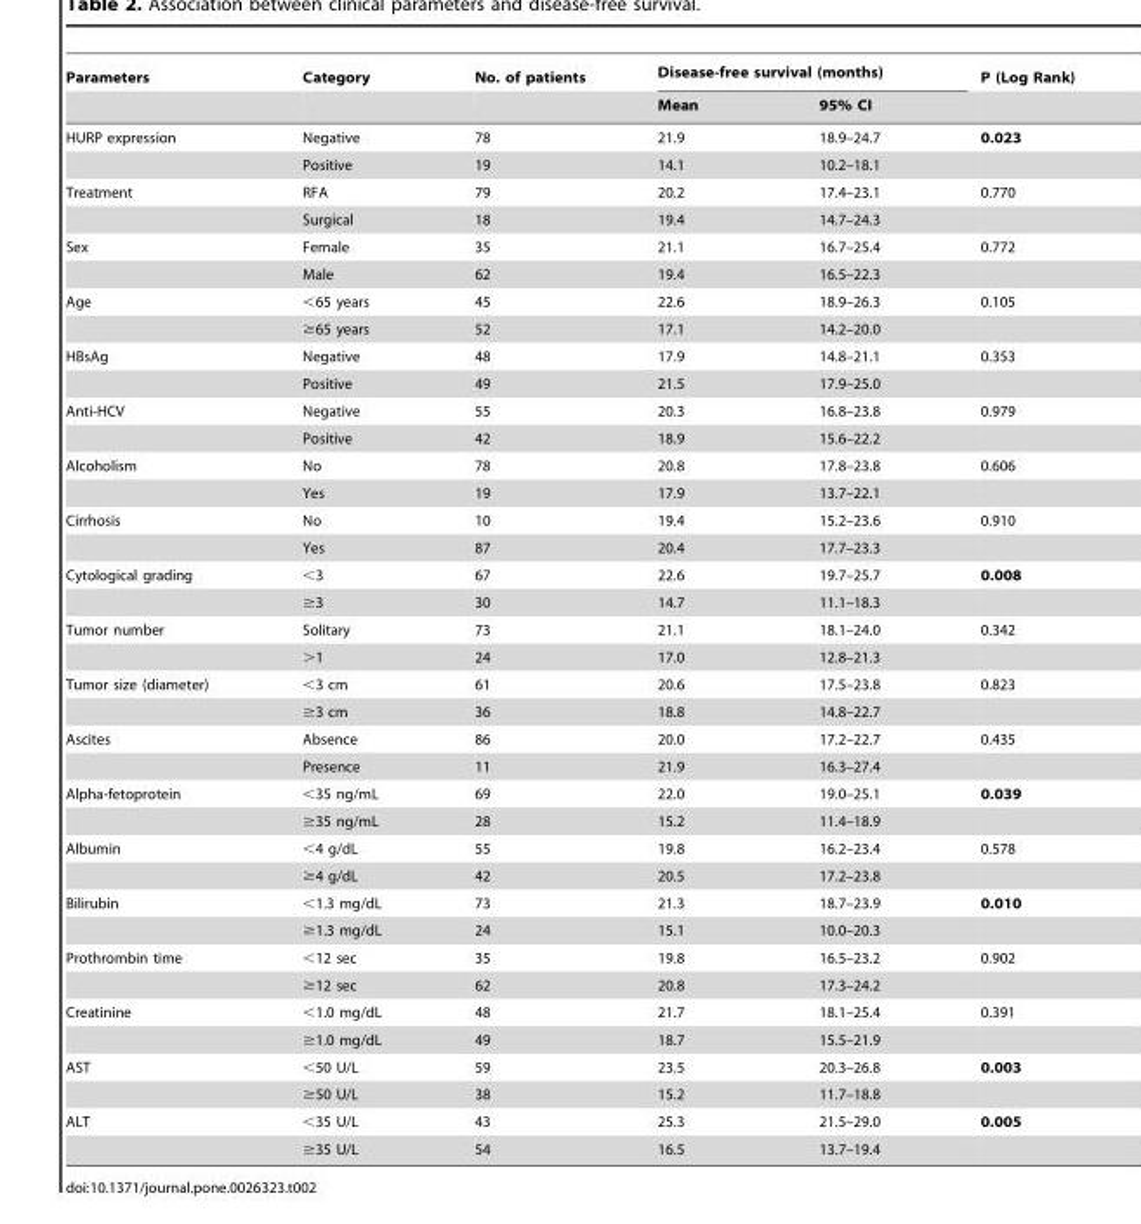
<table><thead><tr><td rowspan="2">Parameters</td><td rowspan="2">Category</td><td rowspan="2">No. of patients</td><td colspan="2">Disease-free survival (months)</td><td rowspan="2">P (Log Rank)</td></tr><tr><td>Mean</td><td>95% CI</td></tr></thead><tbody><tr><td rowspan="2">HURP expression</td><td>Negative</td><td>78</td><td>21.9</td><td>18.9–24.7</td><td>0.023</td></tr><tr><td>Positive</td><td>19</td><td>14.1</td><td>10.2–18.1</td><td></td></tr><tr><td rowspan="2">Treatment</td><td>RFA</td><td>79</td><td>20.2</td><td>17.4–23.1</td><td>0.770</td></tr><tr><td>Surgical</td><td>18</td><td>19.4</td><td>14.7–24.3</td><td></td></tr><tr><td rowspan="2">Sex</td><td>Female</td><td>35</td><td>21.1</td><td>16.7–25.4</td><td>0.772</td></tr><tr><td>Male</td><td>62</td><td>19.4</td><td>16.5–22.3</td><td></td></tr><tr><td rowspan="2">Age</td><td>&lt;65 years</td><td>45</td><td>22.6</td><td>18.9–26.3</td><td>0.105</td></tr><tr><td>≥65 years</td><td>52</td><td>17.1</td><td>14.2–20.0</td><td></td></tr><tr><td rowspan="2">HBsAg</td><td>Negative</td><td>48</td><td>17.9</td><td>14.8–21.1</td><td>0.353</td></tr><tr><td>Positive</td><td>49</td><td>21.5</td><td>17.9–25.0</td><td></td></tr><tr><td rowspan="2">Anti-HCV</td><td>Negative</td><td>55</td><td>20.3</td><td>16.8–23.8</td><td>0.979</td></tr><tr><td>Positive</td><td>42</td><td>18.9</td><td>15.6–22.2</td><td></td></tr><tr><td rowspan="2">Alcoholism</td><td>No</td><td>78</td><td>20.8</td><td>17.8–23.8</td><td>0.606</td></tr><tr><td>Yes</td><td>19</td><td>17.9</td><td>13.7–22.1</td><td></td></tr><tr><td rowspan="2">Cirrhosis</td><td>No</td><td>10</td><td>19.4</td><td>15.2–23.6</td><td>0.910</td></tr><tr><td>Yes</td><td>87</td><td>20.4</td><td>17.7–23.3</td><td></td></tr><tr><td rowspan="2">Cytological grading</td><td>&lt;3</td><td>67</td><td>22.6</td><td>19.7–25.7</td><td>0.008</td></tr><tr><td>≥3</td><td>30</td><td>14.7</td><td>11.1–18.3</td><td></td></tr><tr><td rowspan="2">Tumor number</td><td>Solitary</td><td>73</td><td>21.1</td><td>18.1–24.0</td><td>0.342</td></tr><tr><td>&gt;1</td><td>24</td><td>17.0</td><td>12.8–21.3</td><td></td></tr><tr><td rowspan="2">Tumor size (diameter)</td><td>&lt;3 cm</td><td>61</td><td>20.6</td><td>17.5–23.8</td><td>0.823</td></tr><tr><td>≥3 cm</td><td>36</td><td>18.8</td><td>14.8–22.7</td><td></td></tr><tr><td rowspan="2">Ascites</td><td>Absence</td><td>86</td><td>20.0</td><td>17.2–22.7</td><td>0.435</td></tr><tr><td>Presence</td><td>11</td><td>21.9</td><td>16.3–27.4</td><td></td></tr><tr><td rowspan="2">Alpha-fetoprotein</td><td>&lt;35 ng/mL</td><td>69</td><td>22.0</td><td>19.0–25.1</td><td>0.039</td></tr><tr><td>≥35 ng/mL</td><td>28</td><td>15.2</td><td>11.4–18.9</td><td></td></tr><tr><td rowspan="2">Albumin</td><td>&lt;4 g/dL</td><td>55</td><td>19.8</td><td>16.2–23.4</td><td>0.578</td></tr><tr><td>≥4 g/dL</td><td>42</td><td>20.5</td><td>17.2–23.8</td><td></td></tr><tr><td rowspan="2">Bilirubin</td><td>&lt;1.3 mg/dL</td><td>73</td><td>21.3</td><td>18.7–23.9</td><td>0.010</td></tr><tr><td>≥1.3 mg/dL</td><td>24</td><td>15.1</td><td>10.0–20.3</td><td></td></tr><tr><td rowspan="2">Prothrombin time</td><td>&lt;12 sec</td><td>35</td><td>19.8</td><td>16.5–23.2</td><td>0.902</td></tr><tr><td>≥12 sec</td><td>62</td><td>20.8</td><td>17.3–24.2</td><td></td></tr><tr><td rowspan="2">Creatinine</td><td>&lt;1.0 mg/dL</td><td>48</td><td>21.7</td><td>18.1–25.4</td><td>0.391</td></tr><tr><td>≥1.0 mg/dL</td><td>49</td><td>18.7</td><td>15.5–21.9</td><td></td></tr><tr><td rowspan="2">AST</td><td>&lt;50 U/L</td><td>59</td><td>23.5</td><td>20.3–26.8</td><td>0.003</td></tr><tr><td>≥50 U/L</td><td>38</td><td>15.2</td><td>11.7–18.8</td><td></td></tr><tr><td rowspan="2">ALT</td><td>&lt;35 U/L</td><td>43</td><td>25.3</td><td>21.5–29.0</td><td>0.005</td></tr><tr><td>≥35 U/L</td><td>54</td><td>16.5</td><td>13.7–19.4</td><td></td></tr></tbody></table>